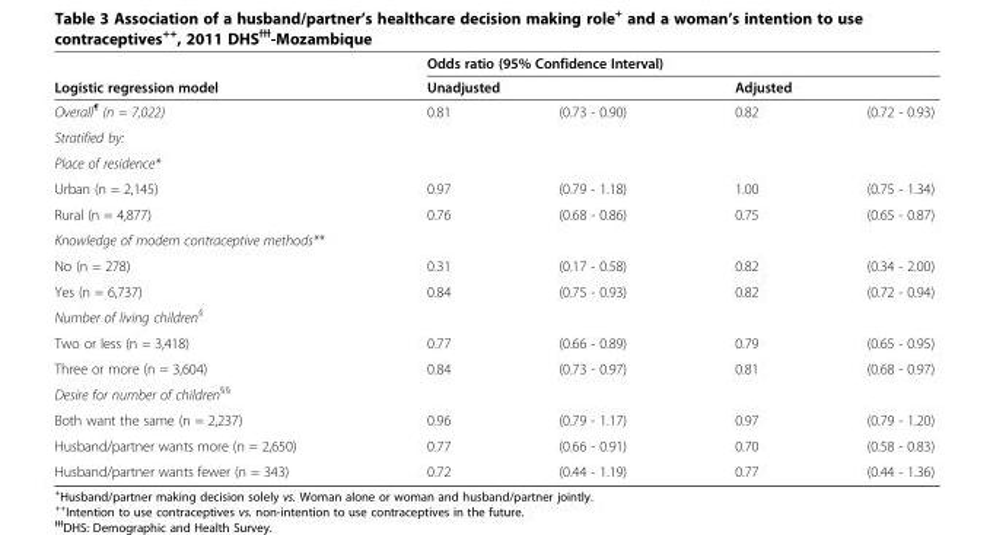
<table><thead><tr><td rowspan="3">Logistic regression model Overall<sup>¶</sup> (n = 7,022)</td><td colspan="4">Odds ratio (95% Confidence Interval)</td></tr><tr><td colspan="2">Unadjusted</td><td colspan="2">Adjusted</td></tr><tr><td>0.81</td><td>(0.73 - 0.90)</td><td>0.82</td><td>(0.72 - 0.93)</td></tr></thead><tbody><tr><td colspan="5">Stratified by:</td></tr><tr><td colspan="5">Place of residence*</td></tr><tr><td>Urban (n = 2,145)</td><td>0.97</td><td>(0.79 - 1.18)</td><td>1.00</td><td>(0.75 - 1.34)</td></tr><tr><td>Rural (n = 4,877)</td><td>0.76</td><td>(0.68 - 0.86)</td><td>0.75</td><td>(0.65 - 0.87)</td></tr><tr><td colspan="5">Knowledge of modern contraceptive methods**</td></tr><tr><td>No (n = 278)</td><td>0.31</td><td>(0.17 - 0.58)</td><td>0.82</td><td>(0.34 - 2.00)</td></tr><tr><td>Yes (n = 6,737)</td><td>0.84</td><td>(0.75 - 0.93)</td><td>0.82</td><td>(0.72 - 0.94)</td></tr><tr><td colspan="5">Number of living children<sup>§</sup></td></tr><tr><td>Two or less (n = 3,418)</td><td>0.77</td><td>(0.66 - 0.89)</td><td>0.79</td><td>(0.65 - 0.95)</td></tr><tr><td>Three or more (n = 3,604)</td><td>0.84</td><td>(0.73 - 0.97)</td><td>0.81</td><td>(0.68 - 0.97)</td></tr><tr><td colspan="5">Desire for number of children<sup>§§</sup></td></tr><tr><td>Both want the same (n = 2,237)</td><td>0.96</td><td>(0.79 - 1.17)</td><td>0.97</td><td>(0.79 - 1.20)</td></tr><tr><td>Husband/partner wants more (n = 2,650)</td><td>0.77</td><td>(0.66 - 0.91)</td><td>0.70</td><td>(0.58 - 0.83)</td></tr><tr><td>Husband/partner wants fewer (n = 343)</td><td>0.72</td><td>(0.44 - 1.19)</td><td>0.77</td><td>(0.44 - 1.36)</td></tr></tbody></table>